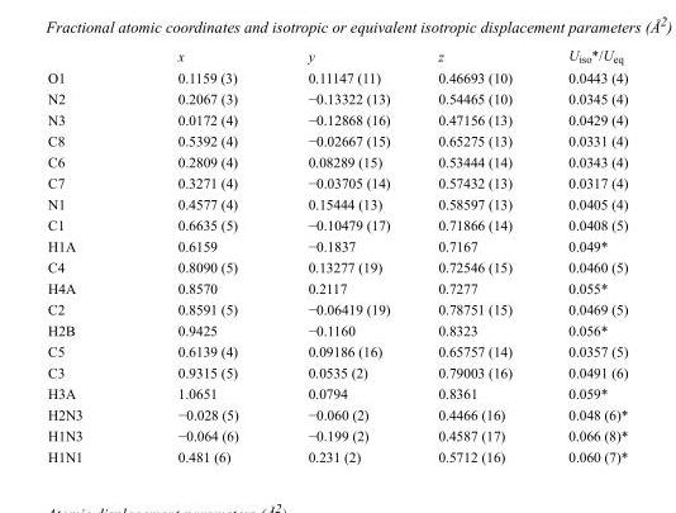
<table><thead><tr><td></td><td>x</td><td>y</td><td>z</td><td>U<sub>iso</sub>*/U<sub>eq</sub></td></tr></thead><tbody><tr><td>O1</td><td>0.1159 (3)</td><td>0.11147 (11)</td><td>0.46693 (10)</td><td>0.0443 (4)</td></tr><tr><td>N2</td><td>0.2067 (3)</td><td>−0.13322 (13)</td><td>0.54465 (10)</td><td>0.0345 (4)</td></tr><tr><td>N3</td><td>0.0172 (4)</td><td>−0.12868 (16)</td><td>0.47156 (13)</td><td>0.0429 (4)</td></tr><tr><td>C8</td><td>0.5392 (4)</td><td>−0.02667 (15)</td><td>0.65275 (13)</td><td>0.0331 (4)</td></tr><tr><td>C6</td><td>0.2809 (4)</td><td>0.08289 (15)</td><td>0.53444 (14)</td><td>0.0343 (4)</td></tr><tr><td>C7</td><td>0.3271 (4)</td><td>−0.03705 (14)</td><td>0.57432 (13)</td><td>0.0317 (4)</td></tr><tr><td>N1</td><td>0.4577 (4)</td><td>0.15444 (13)</td><td>0.58597 (13)</td><td>0.0405 (4)</td></tr><tr><td>C1</td><td>0.6635 (5)</td><td>−0.10479 (17)</td><td>0.71866 (14)</td><td>0.0408 (5)</td></tr><tr><td>H1A</td><td>0.6159</td><td>−0.1837</td><td>0.7167</td><td>0.049*</td></tr><tr><td>C4</td><td>0.8090 (5)</td><td>0.13277 (19)</td><td>0.72546 (15)</td><td>0.0460 (5)</td></tr><tr><td>H4A</td><td>0.8570</td><td>0.2117</td><td>0.7277</td><td>0.055*</td></tr><tr><td>C2</td><td>0.8591 (5)</td><td>−0.06419 (19)</td><td>0.78751 (15)</td><td>0.0469 (5)</td></tr><tr><td>H2B</td><td>0.9425</td><td>−0.1160</td><td>0.8323</td><td>0.056*</td></tr><tr><td>C5</td><td>0.6139 (4)</td><td>0.09186 (16)</td><td>0.65757 (14)</td><td>0.0357 (5)</td></tr><tr><td>C3</td><td>0.9315 (5)</td><td>0.0535 (2)</td><td>0.79003 (16)</td><td>0.0491 (6)</td></tr><tr><td>H3A</td><td>1.0651</td><td>0.0794</td><td>0.8361</td><td>0.059*</td></tr><tr><td>H2N3</td><td>−0.028 (5)</td><td>−0.060 (2)</td><td>0.4466 (16)</td><td>0.048 (6)*</td></tr><tr><td>H1N3</td><td>−0.064 (6)</td><td>−0.199 (2)</td><td>0.4587 (17)</td><td>0.066 (8)*</td></tr><tr><td>H1N1</td><td>0.481 (6)</td><td>0.231 (2)</td><td>0.5712 (16)</td><td>0.060 (7)*</td></tr></tbody></table>